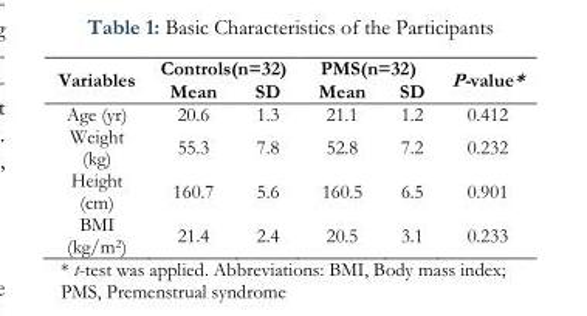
<table><tbody><tr><td rowspan="2">Variables</td><td colspan="2">Controls(n=32)</td><td colspan="2">PMS(n=32)</td><td rowspan="2">P-value*</td></tr><tr><td>Mean</td><td>SD</td><td>Mean</td><td>SD</td></tr><tr><td>Age (yr)</td><td>20.6</td><td>1.3</td><td>21.1</td><td>1.2</td><td>0.412</td></tr><tr><td>Weight (kg)</td><td>55.3</td><td>7.8</td><td>52.8</td><td>7.2</td><td>0.232</td></tr><tr><td>Height (cm)</td><td>160.7</td><td>5.6</td><td>160.5</td><td>6.5</td><td>0.901</td></tr><tr><td>BMI (kg/m<sup>2</sup>)</td><td>21.4</td><td>2.4</td><td>20.5</td><td>3.1</td><td>0.233</td></tr></tbody></table>